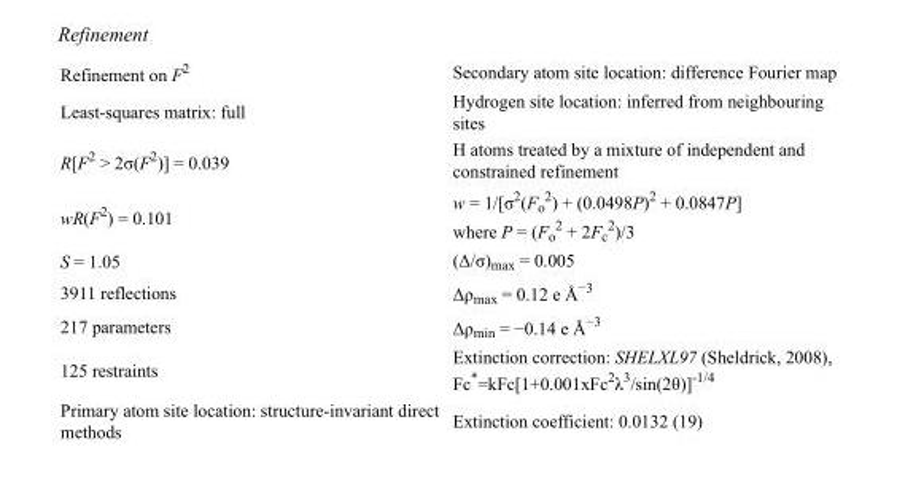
<table><tbody><tr><td>Refinement on F<sup>2</sup></td><td>Secondary atom site location: difference Fourier map</td></tr><tr><td>Least-squares matrix: full</td><td>Hydrogen site location: inferred from neighbouring sites</td></tr><tr><td>R[F<sup>2</sup> &gt; 2σ(F<sup>2</sup>)] = 0.039</td><td>H atoms treated by a mixture of independent and constrained refinement</td></tr><tr><td>wR(F<sup>2</sup>) = 0.101</td><td>w = 1/[σ<sup>2</sup>(F<sub>o</sub> <sup>2</sup>) + (0.0498P)<sup>2</sup> + 0.0847P] where P = (F<sub>o</sub> <sup>2</sup> + 2F<sub>c</sub> <sup>2</sup>)/3</td></tr><tr><td>S = 1.05</td><td>(Δ/σ)<sub>max</sub> = 0.005</td></tr><tr><td>3911 reflections</td><td>Δρ<sub>max</sub> = 0.12 e Å<sup>−3</sup></td></tr><tr><td>217 parameters</td><td>Δρ<sub>min</sub> = −0.14 e Å<sup>−3</sup></td></tr><tr><td>125 restraints</td><td>Extinction correction: SHELXL97 (Sheldrick, 2008), Fc*=kFc[1+0.001xFc<sup>2</sup>λ<sup>3</sup>/sin(2θ)]<sup>-1/4</sup></td></tr><tr><td>Primary atom site location: structure-invariant direct methods</td><td>Extinction coefficient: 0.0132 (19)</td></tr></tbody></table>